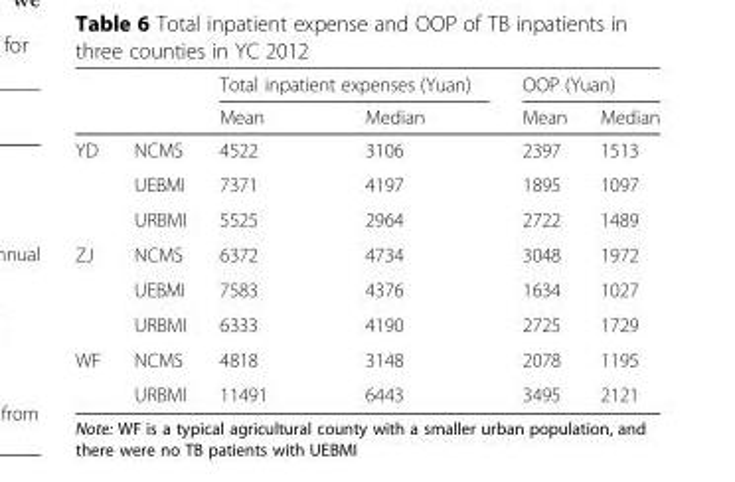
<table><thead><tr><td rowspan="2"></td><td rowspan="2"></td><td colspan="2">Total inpatient expenses (Yuan)</td><td colspan="2">OOP (Yuan)</td></tr><tr><td>Mean</td><td>Median</td><td>Mean</td><td>Median</td></tr></thead><tbody><tr><td rowspan="3">YD</td><td>NCMS</td><td>4522</td><td>3106</td><td>2397</td><td>1513</td></tr><tr><td>UEBMI</td><td>7371</td><td>4197</td><td>1895</td><td>1097</td></tr><tr><td>URBMI</td><td>5525</td><td>2964</td><td>2722</td><td>1489</td></tr><tr><td rowspan="3">ZJ</td><td>NCMS</td><td>6372</td><td>4734</td><td>3048</td><td>1972</td></tr><tr><td>UEBMI</td><td>7583</td><td>4376</td><td>1634</td><td>1027</td></tr><tr><td>URBMI</td><td>6333</td><td>4190</td><td>2725</td><td>1729</td></tr><tr><td rowspan="2">WF</td><td>NCMS</td><td>4818</td><td>3148</td><td>2078</td><td>1195</td></tr><tr><td>URBMI</td><td>11491</td><td>6443</td><td>3495</td><td>2121</td></tr></tbody></table>